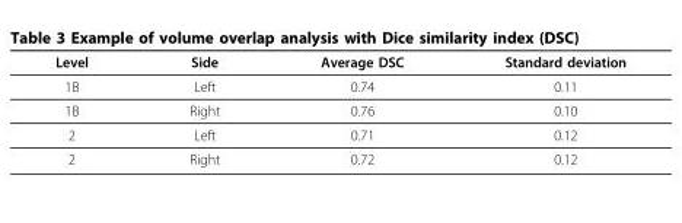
<table><thead><tr><td>Level</td><td>Side</td><td>Average DSC</td><td>Standard deviation</td></tr></thead><tbody><tr><td>1B</td><td>Left</td><td>0.74</td><td>0.11</td></tr><tr><td>1B</td><td>Right</td><td>0.76</td><td>0.10</td></tr><tr><td>2</td><td>Left</td><td>0.71</td><td>0.12</td></tr><tr><td>2</td><td>Right</td><td>0.72</td><td>0.12</td></tr></tbody></table>